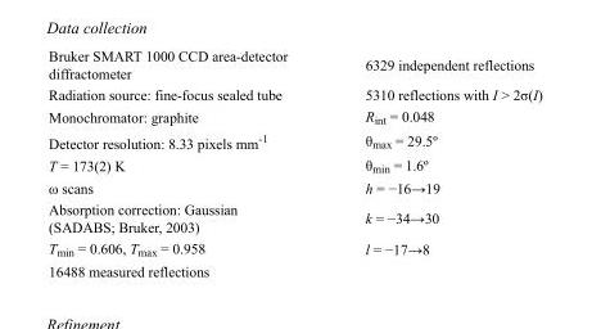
<table><tbody><tr><td>Bruker SMART 1000 CCD area-detector diffractometer</td><td>6329 independent reflections</td></tr><tr><td>Radiation source: fine-focus sealed tube</td><td>5310 reflections with I &gt; 2σ(I)</td></tr><tr><td>Monochromator: graphite</td><td>R<sub>int</sub> = 0.048</td></tr><tr><td>Detector resolution: 8.33 pixels mm<sup>-1</sup></td><td>θ<sub>max</sub> = 29.5º</td></tr><tr><td>T = 173(2) K</td><td>θ<sub>min</sub> = 1.6º</td></tr><tr><td>ω scans</td><td>h = −16→19</td></tr><tr><td>Absorption correction: Gaussian (SADABS; Bruker, 2003)</td><td>k = −34→30</td></tr><tr><td>T<sub>min</sub> = 0.606, T<sub>max</sub> = 0.958</td><td>l = −17→8</td></tr><tr><td>16488 measured reflections</td><td></td></tr></tbody></table>